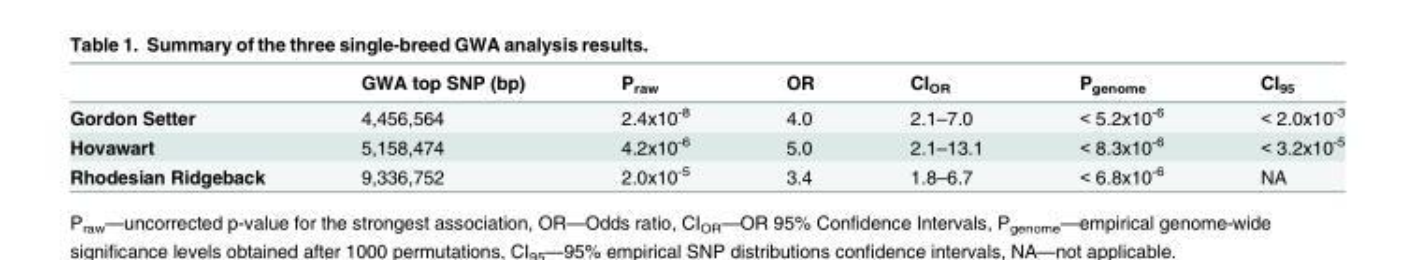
<table><thead><tr><td></td><td>GWA top SNP (bp)</td><td>P<sub>raw</sub></td><td>OR</td><td>CI<sub>OR</sub></td><td>P<sub>genome</sub></td><td>CI<sub>95</sub></td></tr></thead><tbody><tr><td>Gordon Setter</td><td>4,456,564</td><td>2.4x10<sup>-8</sup></td><td>4.0</td><td>2.1–7.0</td><td>&lt; 5.2x10<sup>-6</sup></td><td>&lt; 2.0x10<sup>-3</sup></td></tr><tr><td>Hovawart</td><td>5,158,474</td><td>4.2x10<sup>-6</sup></td><td>5.0</td><td>2.1–13.1</td><td>&lt; 8.3x10<sup>-6</sup></td><td>&lt; 3.2x10<sup>-5</sup></td></tr><tr><td>Rhodesian Ridgeback</td><td>9,336,752</td><td>2.0x10<sup>-5</sup></td><td>3.4</td><td>1.8–6.7</td><td>&lt; 6.8x10<sup>-6</sup></td><td>NA</td></tr></tbody></table>